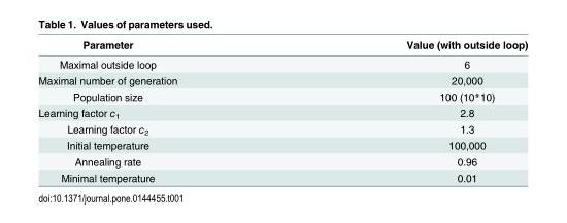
<table><thead><tr><td>Parameter</td><td>Value (with outside loop)</td></tr></thead><tbody><tr><td>Maximal outside loop</td><td>6</td></tr><tr><td>Maximal number of generation</td><td>20,000</td></tr><tr><td>Population size</td><td>100 (10*10)</td></tr><tr><td>Learning factor c<sub>1</sub></td><td>2.8</td></tr><tr><td>Learning factor c<sub>2</sub></td><td>1.3</td></tr><tr><td>Initial temperature</td><td>100,000</td></tr><tr><td>Annealing rate</td><td>0.96</td></tr><tr><td>Minimal temperature</td><td>0.01</td></tr></tbody></table>